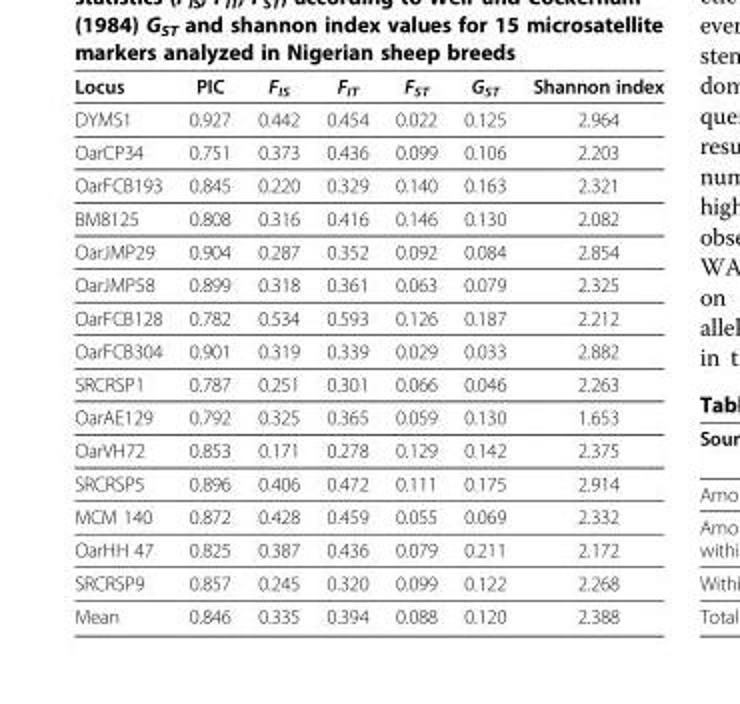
<table><thead><tr><td>Locus</td><td>PIC</td><td>F<sub>IS</sub></td><td>F<sub>IT</sub></td><td>F<sub>ST</sub></td><td>G<sub>ST</sub></td><td>Shannon index</td></tr></thead><tbody><tr><td>DYMS1</td><td>0.927</td><td>0.442</td><td>0.454</td><td>0.022</td><td>0.125</td><td>2.964</td></tr><tr><td>OarCP34</td><td>0.751</td><td>0.373</td><td>0.436</td><td>0.099</td><td>0.106</td><td>2.203</td></tr><tr><td>OarFCB193</td><td>0.845</td><td>0.220</td><td>0.329</td><td>0.140</td><td>0.163</td><td>2.321</td></tr><tr><td>BM8125</td><td>0.808</td><td>0.316</td><td>0.416</td><td>0.146</td><td>0.130</td><td>2.082</td></tr><tr><td>OarJMP29</td><td>0.904</td><td>0.287</td><td>0.352</td><td>0.092</td><td>0.084</td><td>2.854</td></tr><tr><td>OarJMP58</td><td>0.899</td><td>0.318</td><td>0.361</td><td>0.063</td><td>0.079</td><td>2.325</td></tr><tr><td>OarFCB128</td><td>0.782</td><td>0.534</td><td>0.593</td><td>0.126</td><td>0.187</td><td>2.212</td></tr><tr><td>OarFCB304</td><td>0.901</td><td>0.319</td><td>0.339</td><td>0.029</td><td>0.033</td><td>2.882</td></tr><tr><td>SRCRSP1</td><td>0.787</td><td>0.251</td><td>0.301</td><td>0.066</td><td>0.046</td><td>2.263</td></tr><tr><td>OarAE129</td><td>0.792</td><td>0.325</td><td>0.365</td><td>0.059</td><td>0.130</td><td>1.653</td></tr><tr><td>OarVH72</td><td>0.853</td><td>0.171</td><td>0.278</td><td>0.129</td><td>0.142</td><td>2.375</td></tr><tr><td>SRCRSP5</td><td>0.896</td><td>0.406</td><td>0.472</td><td>0.111</td><td>0.175</td><td>2.914</td></tr><tr><td>MCM 140</td><td>0.872</td><td>0.428</td><td>0.459</td><td>0.055</td><td>0.069</td><td>2.332</td></tr><tr><td>OarHH 47</td><td>0.825</td><td>0.387</td><td>0.436</td><td>0.079</td><td>0.211</td><td>2.172</td></tr><tr><td>SRCRSP9</td><td>0.857</td><td>0.245</td><td>0.320</td><td>0.099</td><td>0.122</td><td>2.268</td></tr><tr><td>Mean</td><td>0.846</td><td>0.335</td><td>0.394</td><td>0.088</td><td>0.120</td><td>2.388</td></tr></tbody></table>